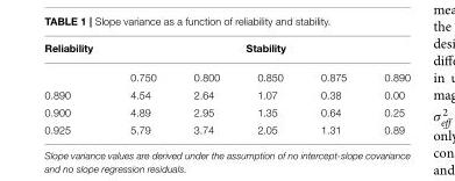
<table><thead><tr><td rowspan="2">Reliability</td><td colspan="5">Stability</td></tr><tr><td>0.750</td><td>0.800</td><td>0.850</td><td>0.875</td><td>0.890</td></tr></thead><tbody><tr><td>0.890</td><td>4.54</td><td>2.64</td><td>1.07</td><td>0.38</td><td>0.00</td></tr><tr><td>0.900</td><td>4.89</td><td>2.95</td><td>1.35</td><td>0.64</td><td>0.25</td></tr><tr><td>0.925</td><td>5.79</td><td>3.74</td><td>2.05</td><td>1.31</td><td>0.89</td></tr></tbody></table>